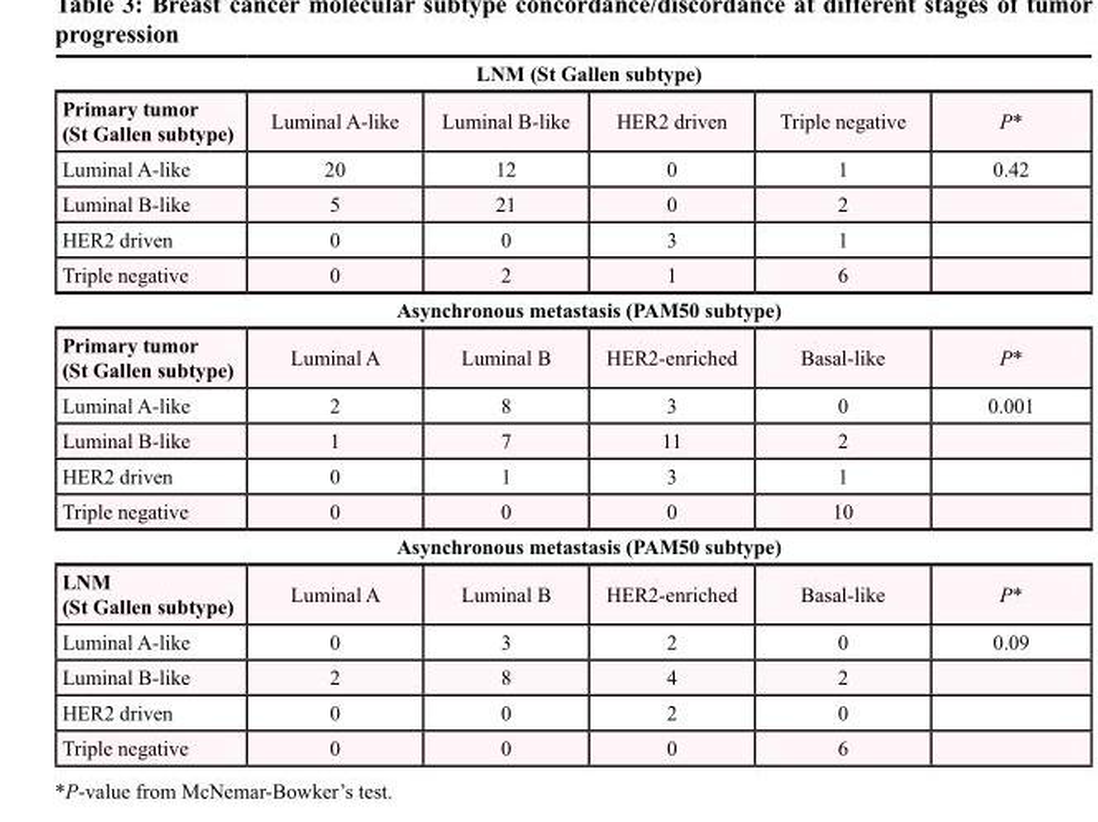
<table><tbody><tr><td colspan="6">LNM (St Gallen subtype)</td></tr><tr><td>Primary tumor (St Gallen subtype)</td><td>Luminal A-like</td><td>Luminal B-like</td><td>HER2 driven</td><td>Triple negative</td><td>P*</td></tr><tr><td>Luminal A-like</td><td>20</td><td>12</td><td>0</td><td>1</td><td>0.42</td></tr><tr><td>Luminal B-like</td><td>5</td><td>21</td><td>0</td><td>2</td><td></td></tr><tr><td>HER2 driven</td><td>0</td><td>0</td><td>3</td><td>1</td><td></td></tr><tr><td>Triple negative</td><td>0</td><td>2</td><td>1</td><td>6</td><td></td></tr><tr><td colspan="6">Asynchronous metastasis (PAM50 subtype)</td></tr><tr><td>Primary tumor (St Gallen subtype)</td><td>Luminal A</td><td>Luminal B</td><td>HER2-enriched</td><td>Basal-like</td><td>P*</td></tr><tr><td>Luminal A-like</td><td>2</td><td>8</td><td>3</td><td>0</td><td>0.001</td></tr><tr><td>Luminal B-like</td><td>1</td><td>7</td><td>11</td><td>2</td><td></td></tr><tr><td>HER2 driven</td><td>0</td><td>1</td><td>3</td><td>1</td><td></td></tr><tr><td>Triple negative</td><td>0</td><td>0</td><td>0</td><td>10</td><td></td></tr><tr><td colspan="6">Asynchronous metastasis (PAM50 subtype)</td></tr><tr><td>LNM (St Gallen subtype)</td><td>Luminal A</td><td>Luminal B</td><td>HER2-enriched</td><td>Basal-like</td><td>P*</td></tr><tr><td>Luminal A-like</td><td>0</td><td>3</td><td>2</td><td>0</td><td>0.09</td></tr><tr><td>Luminal B-like</td><td>2</td><td>8</td><td>4</td><td>2</td><td></td></tr><tr><td>HER2 driven</td><td>0</td><td>0</td><td>2</td><td>0</td><td></td></tr><tr><td>Triple negative</td><td>0</td><td>0</td><td>0</td><td>6</td><td></td></tr></tbody></table>